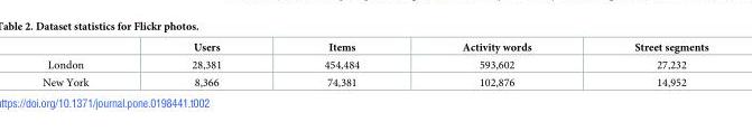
<table><thead><tr><td></td><td>Users</td><td>Items</td><td>Activity words</td><td>Street segments</td></tr></thead><tbody><tr><td>London</td><td>28,381</td><td>454,484</td><td>593,602</td><td>27,232</td></tr><tr><td>New York</td><td>8,366</td><td>74,381</td><td>102,876</td><td>14,952</td></tr></tbody></table>